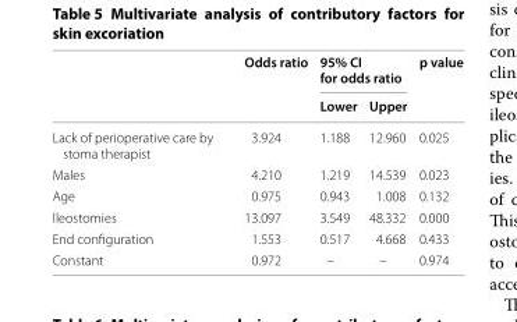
<table><thead><tr><td rowspan="2"></td><td rowspan="2">Odds ratio</td><td colspan="2">95% CI for odds ratio</td><td rowspan="2">p value</td></tr><tr><td>Lower</td><td>Upper</td></tr></thead><tbody><tr><td>Lack of perioperative care by stoma therapist</td><td>3.924</td><td>1.188</td><td>12.960</td><td>0.025</td></tr><tr><td>Males</td><td>4.210</td><td>1.219</td><td>14.539</td><td>0.023</td></tr><tr><td>Age</td><td>0.975</td><td>0.943</td><td>1.008</td><td>0.132</td></tr><tr><td>Ileostomies</td><td>13.097</td><td>3.549</td><td>48.332</td><td>0.000</td></tr><tr><td>End configuration</td><td>1.553</td><td>0.517</td><td>4.668</td><td>0.433</td></tr><tr><td>Constant</td><td>0.972</td><td>–</td><td>–</td><td>0.974</td></tr></tbody></table>